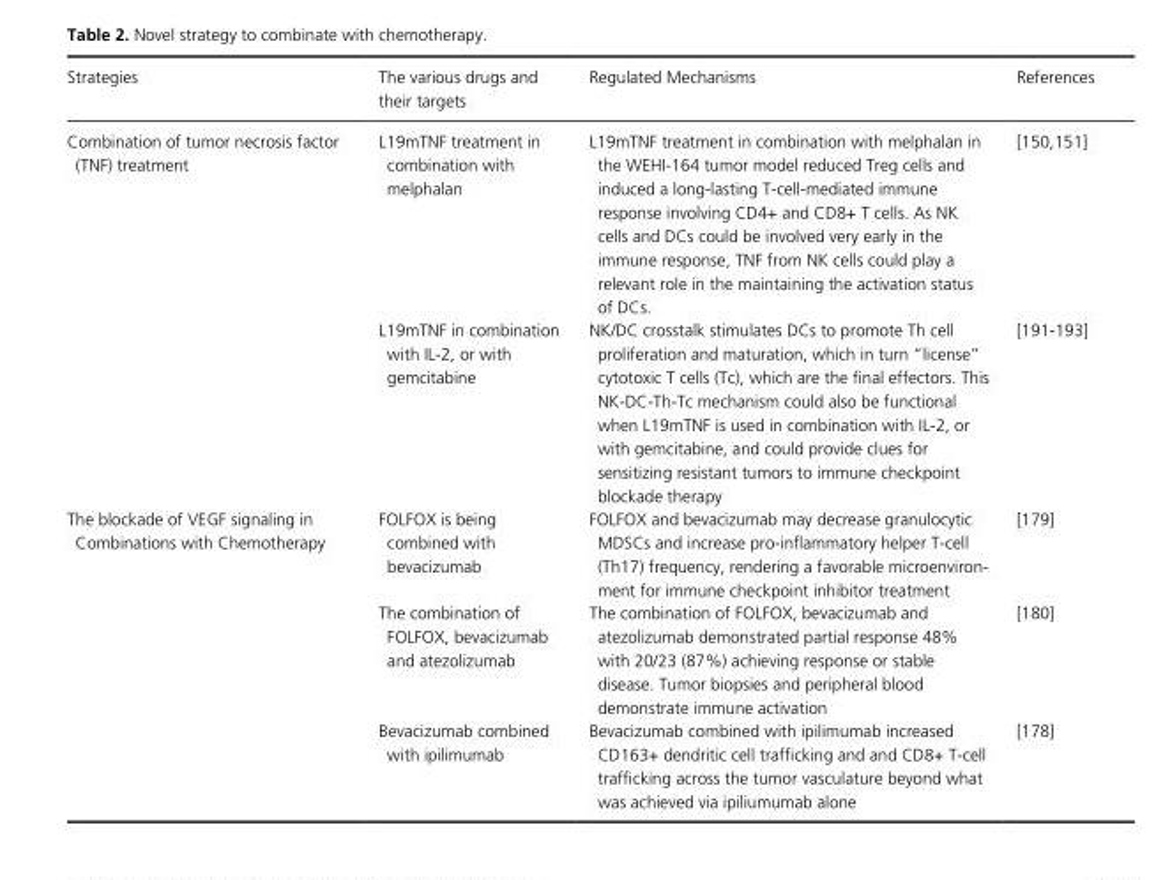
<table><thead><tr><td>Strategies</td><td>The various drugs and their targets</td><td>Regulated Mechanisms</td><td>References</td></tr></thead><tbody><tr><td rowspan="2">Combination of tumor necrosis factor (TNF) treatment</td><td>L19mTNF treatment in combination with melphalan</td><td>L19mTNF treatment in combination with melphalan in the WEHI- 164 tumor model reduced Treg cells and induced a long- lasting T- cell- mediated immune response involving CD4+ and CD8+ T cells. As NK cells and DCs could be involved very early in the immune response, TNF from NK cells could play a relevant role in the maintaining the activation status of DCs.</td><td>[150,151]</td></tr><tr><td>L19mTNF in combination with IL- 2, or with gemcitabine</td><td>NK/DC crosstalk stimulates DCs to promote Th cell proliferation and maturation, which in turn “license” cytotoxic T cells (Tc), which are the final effectors. This NK- DC- Th- Tc mechanism could also be functional when L19mTNF is used in combination with IL- 2, or with gemcitabine, and could provide clues for sensitizing resistant tumors to immune checkpoint blockade therapy</td><td>[191-193]</td></tr><tr><td rowspan="3">The blockade of VEGF signaling in Combinations with Chemotherapy</td><td>FOLFOX is being combined with bevacizumab</td><td>FOLFOX and bevacizumab may decrease granulocytic MDSCs and increase pro- inflammatory helper T- cell (Th17) frequency, rendering a favorable microenviron- ment for immune checkpoint inhibitor treatment</td><td>[179]</td></tr><tr><td>The combination of FOLFOX, bevacizumab and atezolizumab</td><td>The combination of FOLFOX, bevacizumab and atezolizumab demonstrated partial response 48% with 20/23 (87%) achieving response or stable disease. Tumor biopsies and peripheral blood demonstrate immune activation</td><td>[180]</td></tr><tr><td>Bevacizumab combined with ipilimumab</td><td>Bevacizumab combined with ipilimumab increased CD163+ dendritic cell trafficking and and CD8+ T- cell trafficking across the tumor vasculature beyond what was achieved via ipiliumumab alone</td><td>[178]</td></tr></tbody></table>